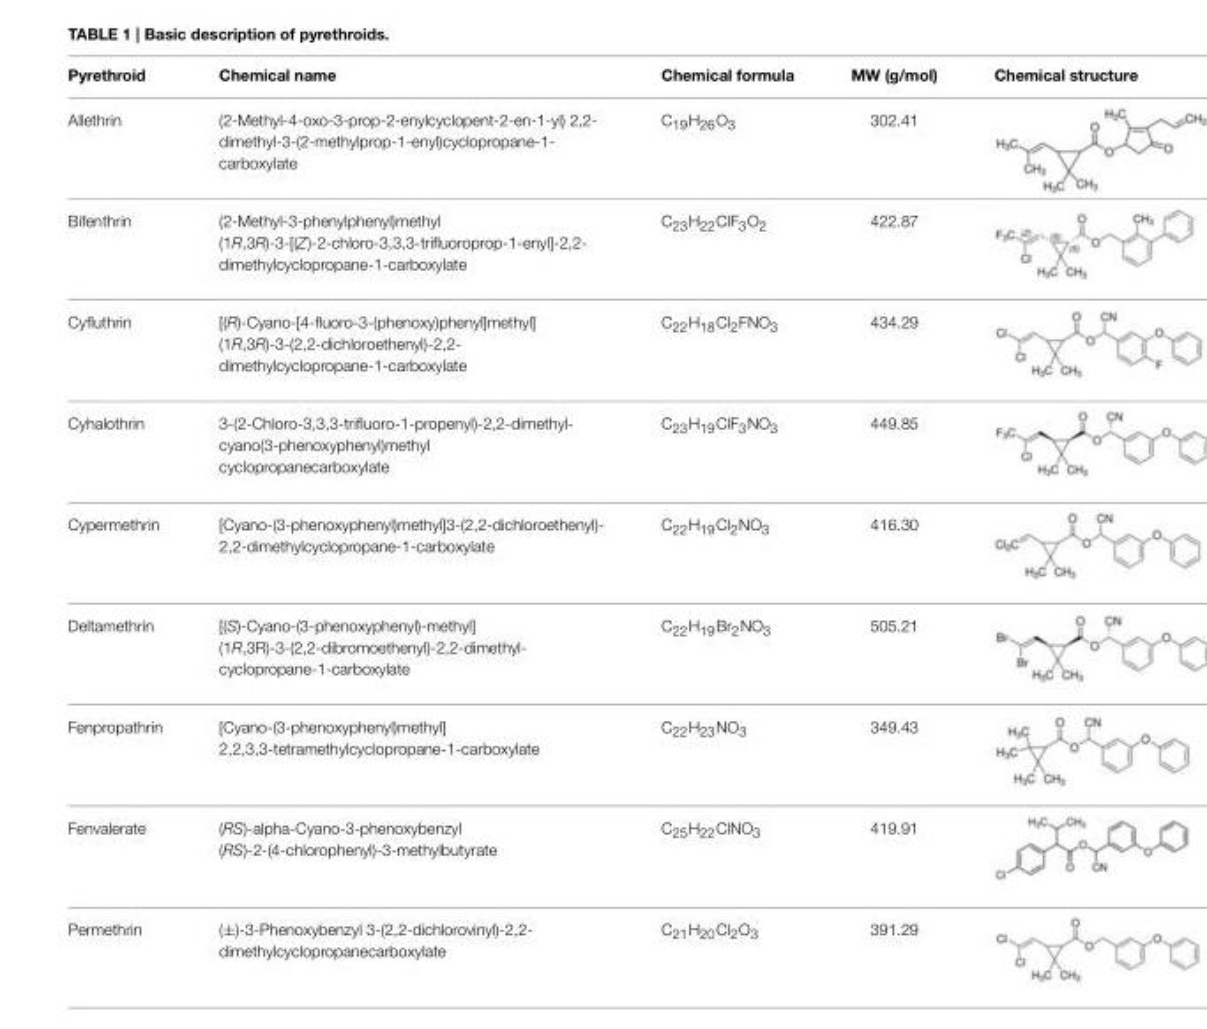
<table><thead><tr><td>Pyrethroid</td><td>Chemical name</td><td>Chemical formula</td><td>MW (g/mol)</td><td>Chemical structure</td></tr></thead><tbody><tr><td>Allethrin</td><td>(2-Methyl-4-oxo-3-prop-2-enylcyclopent-2-en-1-yl) 2,2- dimethyl-3-(2-methylprop-1-enyl)cyclopropane-1- carboxylate</td><td>C<sub>19</sub>H<sub>26</sub>O<sub>3</sub></td><td>302.41</td><td></td></tr><tr><td>Bifenthrin</td><td>(2-Methyl-3-phenylphenyl)methyl (1R,3R)-3-[(Z)-2-chloro-3,3,3-trifluoroprop-1-enyl]-2,2- dimethylcyclopropane-1-carboxylate</td><td>C<sub>23</sub>H<sub>22</sub>ClF<sub>3</sub>O<sub>2</sub></td><td>422.87</td><td></td></tr><tr><td>Cyfluthrin</td><td>[(R)-Cyano-[4-fluoro-3-(phenoxy)phenyl]methyl] (1R,3R)-3-(2,2-dichloroethenyl)-2,2- dimethylcyclopropane-1-carboxylate</td><td>C<sub>22</sub>H<sub>18</sub>Cl<sub>2</sub>FNO<sub>3</sub></td><td>434.29</td><td></td></tr><tr><td>Cyhalothrin</td><td>3-(2-Chloro-3,3,3-trifluoro-1-propenyl)-2,2-dimethyl- cyano(3-phenoxyphenyl)methyl cyclopropanecarboxylate</td><td>C<sub>23</sub>H<sub>19</sub>ClF<sub>3</sub>NO<sub>3</sub></td><td>449.85</td><td></td></tr><tr><td>Cypermethrin</td><td>[Cyano-(3-phenoxyphenyl)methyl]3-(2,2-dichloroethenyl)- 2,2-dimethylcyclopropane-1-carboxylate</td><td>C<sub>22</sub>H<sub>19</sub>Cl<sub>2</sub>NO<sub>3</sub></td><td>416.30</td><td></td></tr><tr><td>Deltamethrin</td><td>[(S)-Cyano-(3-phenoxyphenyl)-methyl] (1R,3R)-3-(2,2-dibromoethenyl)-2,2-dimethyl- cyclopropane-1-carboxylate</td><td>C22H19Br2NO3</td><td>505.21</td><td></td></tr><tr><td>Fenpropathrin</td><td>[Cyano-(3-phenoxyphenyl)methyl] 2,2,3,3-tetramethylcyclopropane-1-carboxylate</td><td>C<sub>22</sub>H<sub>23</sub>NO<sub>3</sub></td><td>349.43</td><td></td></tr><tr><td>Fenvalerate</td><td>(RS)-alpha-Cyano-3-phenoxybenzyl (RS)-2-(4-chlorophenyl)-3-methylbutyrate</td><td>C<sub>25</sub>H<sub>22</sub>ClNO<sub>3</sub></td><td>419.91</td><td></td></tr><tr><td>Permethrin</td><td>(±)-3-Phenoxybenzyl 3-(2,2-dichlorovinyl)-2,2- dimethylcyclopropanecarboxylate</td><td>C<sub>21</sub>H<sub>20</sub>Cl<sub>2</sub>O<sub>3</sub></td><td>391.29</td><td></td></tr></tbody></table>